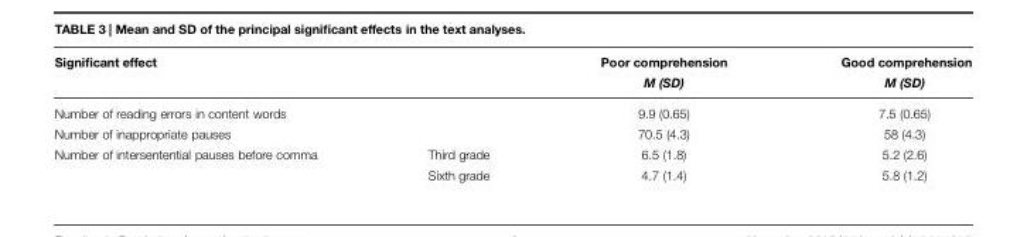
<table><thead><tr><td rowspan="2">Significant effect</td><td rowspan="2"></td><td rowspan="2">Poor comprehension M (SD)</td><td rowspan="2">Good comprehension M (SD)</td></tr><tr></tr></thead><tbody><tr><td>Number of reading errors in content words</td><td></td><td>9.9 (0.65)</td><td>7.5 (0.65)</td></tr><tr><td>Number of inappropriate pauses</td><td></td><td>70.5 (4.3)</td><td>58 (4.3)</td></tr><tr><td rowspan="2">Number of intersentential pauses before comma</td><td>Third grade</td><td>6.5 (1.8)</td><td>5.2 (2.6)</td></tr><tr><td>Sixth grade</td><td>4.7 (1.4)</td><td>5.8 (1.2)</td></tr></tbody></table>